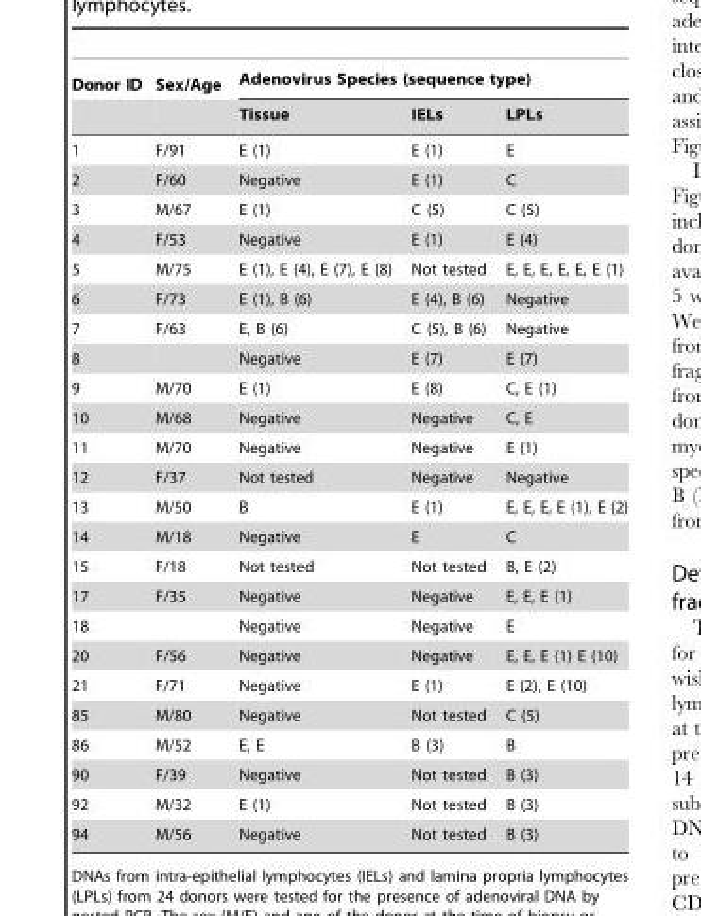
<table><thead><tr><td rowspan="2">Donor ID</td><td rowspan="2">Sex/Age</td><td colspan="3">Adenovirus Species (sequence type)</td></tr><tr><td>Tissue</td><td>IELs</td><td>LPLs</td></tr></thead><tbody><tr><td>1</td><td>F/91</td><td>E (1)</td><td>E (1)</td><td>E</td></tr><tr><td>2</td><td>F/60</td><td>Negative</td><td>E (1)</td><td>C</td></tr><tr><td>3</td><td>M/67</td><td>E (1)</td><td>C (5)</td><td>C (5)</td></tr><tr><td>4</td><td>F/53</td><td>Negative</td><td>E (1)</td><td>E (4)</td></tr><tr><td>5</td><td>M/75</td><td>E (1), E (4), E (7), E (8)</td><td>Not tested</td><td>E, E, E, E, E, E (1)</td></tr><tr><td>6</td><td>F/73</td><td>E (1), B (6)</td><td>E (4), B (6)</td><td>Negative</td></tr><tr><td>7</td><td>F/63</td><td>E, B (6)</td><td>C (5), B (6)</td><td>Negative</td></tr><tr><td>8</td><td></td><td>Negative</td><td>E (7)</td><td>E (7)</td></tr><tr><td>9</td><td>M/70</td><td>E (1)</td><td>E (8)</td><td>C, E (1)</td></tr><tr><td>10</td><td>M/68</td><td>Negative</td><td>Negative</td><td>C, E</td></tr><tr><td>11</td><td>M/70</td><td>Negative</td><td>Negative</td><td>E (1)</td></tr><tr><td>12</td><td>F/37</td><td>Not tested</td><td>Negative</td><td>Negative</td></tr><tr><td>13</td><td>M/50</td><td>B</td><td>E (1)</td><td>E, E, E, E (1), E (2)</td></tr><tr><td>14</td><td>M/18</td><td>Negative</td><td>E</td><td>C</td></tr><tr><td>15</td><td>F/18</td><td>Not tested</td><td>Not tested</td><td>B, E (2)</td></tr><tr><td>17</td><td>F/35</td><td>Negative</td><td>Negative</td><td>E, E, E (1)</td></tr><tr><td>18</td><td></td><td>Negative</td><td>Negative</td><td>E</td></tr><tr><td>20</td><td>F/56</td><td>Negative</td><td>Negative</td><td>E, E, E (1) E (10)</td></tr><tr><td>21</td><td>F/71</td><td>Negative</td><td>E (1)</td><td>E (2), E (10)</td></tr><tr><td>85</td><td>M/80</td><td>Negative</td><td>Not tested</td><td>C (5)</td></tr><tr><td>86</td><td>M/52</td><td>E, E</td><td>B (3)</td><td>B</td></tr><tr><td>90</td><td>F/39</td><td>Negative</td><td>Not tested</td><td>B (3)</td></tr><tr><td>92</td><td>M/32</td><td>E (1)</td><td>Not tested</td><td>B (3)</td></tr><tr><td>94</td><td>M/56</td><td>Negative</td><td>Not tested</td><td>B (3)</td></tr></tbody></table>